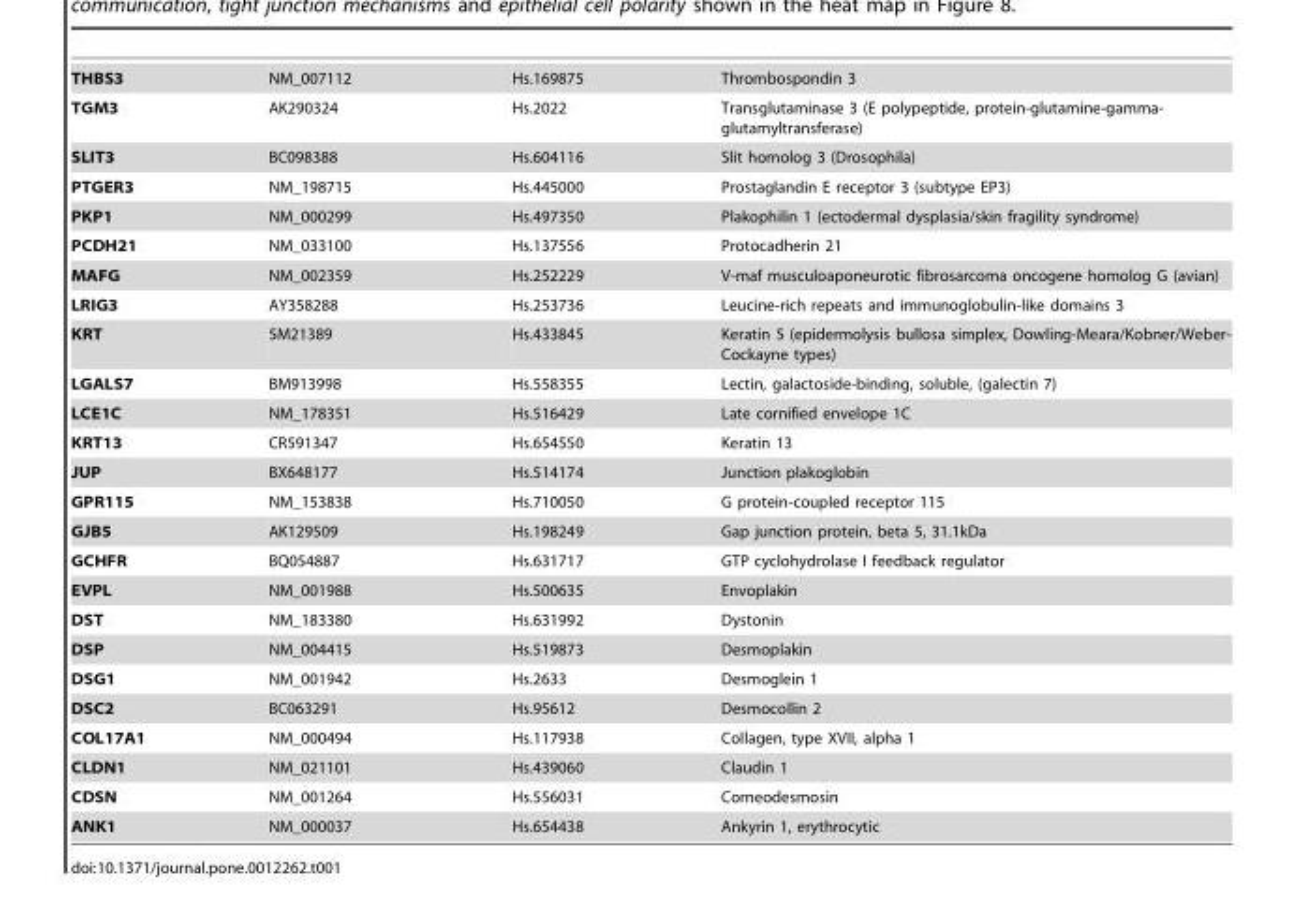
<table><tbody><tr><td>THBS3</td><td>NM_007112</td><td>Hs.169875</td><td>Thrombospondin 3</td></tr><tr><td>TGM3</td><td>AK290324</td><td>Hs.2022</td><td>Transglutaminase 3 (E polypeptide, protein-glutamine-gamma- glutamyltransferase)</td></tr><tr><td>SLIT3</td><td>BC098388</td><td>Hs.604116</td><td>Slit homolog 3 (Drosophila)</td></tr><tr><td>PTGER3</td><td>NM_198715</td><td>Hs.445000</td><td>Prostaglandin E receptor 3 (subtype EP3)</td></tr><tr><td>PKP1</td><td>NM_000299</td><td>Hs.497350</td><td>Plakophilin 1 (ectodermal dysplasia/skin fragility syndrome)</td></tr><tr><td>PCDH21</td><td>NM_033100</td><td>Hs.137556</td><td>Protocadherin 21</td></tr><tr><td>MAFG</td><td>NM_002359</td><td>Hs.252229</td><td>V-maf musculoaponeurotic fibrosarcoma oncogene homolog G (avian)</td></tr><tr><td>LRIG3</td><td>AY358288</td><td>Hs.253736</td><td>Leucine-rich repeats and immunoglobulin-like domains 3</td></tr><tr><td>KRT</td><td>5M21389</td><td>Hs.433845</td><td>Keratin 5 (epidermolysis bullosa simplex, Dowling-Meara/Kobner/Weber- Cockayne types)</td></tr><tr><td>LGALS7</td><td>BM913998</td><td>Hs.558355</td><td>Lectin, galactoside-binding, soluble, (galectin 7)</td></tr><tr><td>LCE1C</td><td>NM_178351</td><td>Hs.516429</td><td>Late cornified envelope 1C</td></tr><tr><td>KRT13</td><td>CR591347</td><td>Hs.654550</td><td>Keratin 13</td></tr><tr><td>JUP</td><td>BX648177</td><td>Hs.514174</td><td>Junction plakoglobin</td></tr><tr><td>GPR115</td><td>NM_153838</td><td>Hs.710050</td><td>G protein-coupled receptor 115</td></tr><tr><td>GJB5</td><td>AK129509</td><td>Hs.198249</td><td>Gap junction protein, beta 5, 31.1kDa</td></tr><tr><td>GCHFR</td><td>BQ054887</td><td>Hs.631717</td><td>GTP cyclohydrolase I feedback regulator</td></tr><tr><td>EVPL</td><td>NM_001988</td><td>Hs.500635</td><td>Envoplakin</td></tr><tr><td>DST</td><td>NM_183380</td><td>Hs.631992</td><td>Dystonin</td></tr><tr><td>DSP</td><td>NM_004415</td><td>Hs.519873</td><td>Desmoplakin</td></tr><tr><td>DSG1</td><td>NM_001942</td><td>Hs.2633</td><td>Desmoglein 1</td></tr><tr><td>DSC2</td><td>BC063291</td><td>Hs.95612</td><td>Desmocollin 2</td></tr><tr><td>COL17A1</td><td>NM_000494</td><td>Hs.117938</td><td>Collagen, type XVII, alpha 1</td></tr><tr><td>CLDN1</td><td>NM_021101</td><td>Hs.439060</td><td>Claudin 1</td></tr><tr><td>CDSN</td><td>NM_001264</td><td>Hs.556031</td><td>Corneodesmosin</td></tr><tr><td>ANK1</td><td>NM_000037</td><td>Hs.654438</td><td>Ankyrin 1, erythrocytic</td></tr></tbody></table>